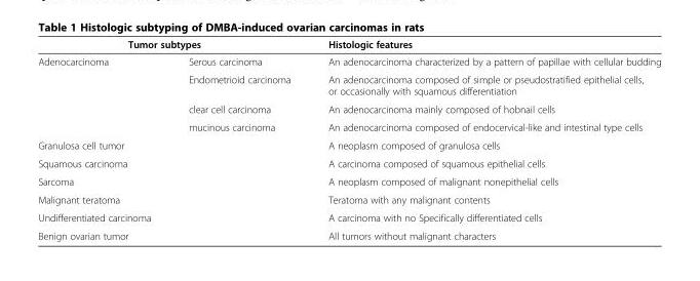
<table><thead><tr><td colspan="2">Tumor subtypes</td><td rowspan="2">Histologic features An adenocarcinoma characterized by a pattern of papillae with cellular budding</td></tr><tr><td>Adenocarcinoma</td><td>Serous carcinoma</td></tr></thead><tbody><tr><td></td><td>Endometrioid carcinoma</td><td>An adenocarcinoma composed of simple or pseudostratified epithelial cells, or occasionally with squamous differentiation</td></tr><tr><td></td><td>clear cell carcinoma</td><td>An adenocarcinoma mainly composed of hobnail cells</td></tr><tr><td></td><td>mucinous carcinoma</td><td>An adenocarcinoma composed of endocervical-like and intestinal type cells</td></tr><tr><td>Granulosa cell tumor</td><td></td><td>A neoplasm composed of granulosa cells</td></tr><tr><td>Squamous carcinoma</td><td></td><td>A carcinoma composed of squamous epithelial cells</td></tr><tr><td>Sarcoma</td><td></td><td>A neoplasm composed of malignant nonepithelial cells</td></tr><tr><td>Malignant teratoma</td><td></td><td>Teratoma with any malignant contents</td></tr><tr><td>Undifferentiated carcinoma</td><td></td><td>A carcinoma with no Specifically differentiated cells</td></tr><tr><td>Benign ovarian tumor</td><td></td><td>All tumors without malignant characters</td></tr></tbody></table>